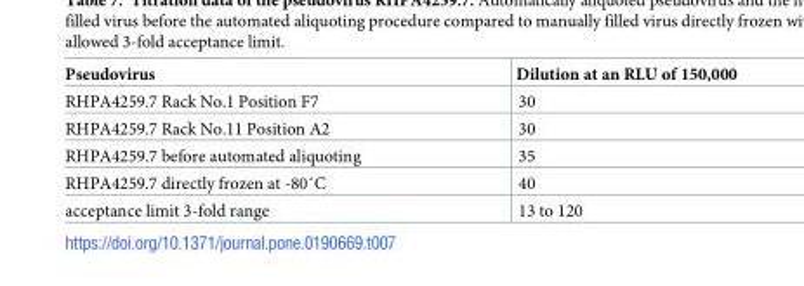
<table><thead><tr><td>Pseudovirus</td><td>Dilution at an RLU of 150,000</td></tr></thead><tbody><tr><td>RHPA4259.7 Rack No.1 Position F7</td><td>30</td></tr><tr><td>RHPA4259.7 Rack No.11 Position A2</td><td>30</td></tr><tr><td>RHPA4259.7 before automated aliquoting</td><td>35</td></tr><tr><td>RHPA4259.7 directly frozen at -80˚C</td><td>40</td></tr><tr><td>acceptance limit 3-fold range</td><td>13 to 120</td></tr></tbody></table>